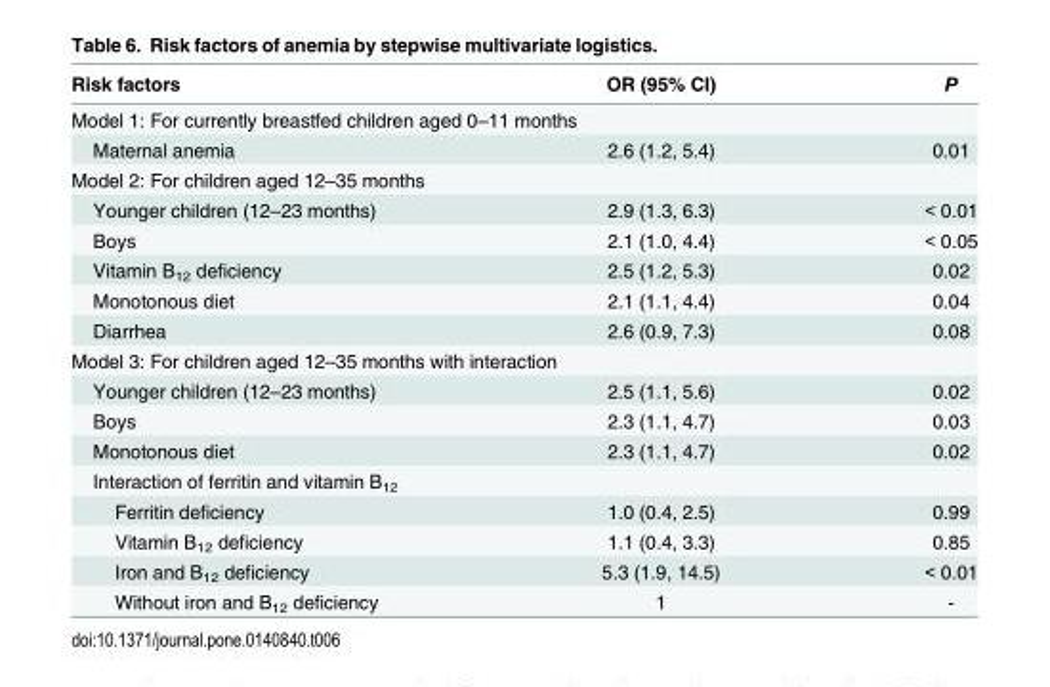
<table><thead><tr><td>Risk factors</td><td>OR (95% CI)</td><td>P</td></tr></thead><tbody><tr><td colspan="3">Model 1: For currently breastfed children aged 0–11 months</td></tr><tr><td>Maternal anemia</td><td>2.6 (1.2, 5.4)</td><td>0.01</td></tr><tr><td colspan="3">Model 2: For children aged 12–35 months</td></tr><tr><td>Younger children (12–23 months)</td><td>2.9 (1.3, 6.3)</td><td>&lt; 0.01</td></tr><tr><td>Boys</td><td>2.1 (1.0, 4.4)</td><td>&lt; 0.05</td></tr><tr><td>Vitamin B<sub>12</sub> deficiency</td><td>2.5 (1.2, 5.3)</td><td>0.02</td></tr><tr><td>Monotonous diet</td><td>2.1 (1.1, 4.4)</td><td>0.04</td></tr><tr><td>Diarrhea</td><td>2.6 (0.9, 7.3)</td><td>0.08</td></tr><tr><td colspan="3">Model 3: For children aged 12–35 months with interaction</td></tr><tr><td>Younger children (12–23 months)</td><td>2.5 (1.1, 5.6)</td><td>0.02</td></tr><tr><td>Boys</td><td>2.3 (1.1, 4.7)</td><td>0.03</td></tr><tr><td>Monotonous diet</td><td>2.3 (1.1, 4.7)</td><td>0.02</td></tr><tr><td colspan="3">Interaction of ferritin and vitamin B<sub>12</sub></td></tr><tr><td>Ferritin deficiency</td><td>1.0 (0.4, 2.5)</td><td>0.99</td></tr><tr><td>Vitamin B<sub>12</sub> deficiency</td><td>1.1 (0.4, 3.3)</td><td>0.85</td></tr><tr><td>Iron and B<sub>12</sub> deficiency</td><td>5.3 (1.9, 14.5)</td><td>&lt; 0.01</td></tr><tr><td>Without iron and B<sub>12</sub> deficiency</td><td>1</td><td>-</td></tr></tbody></table>